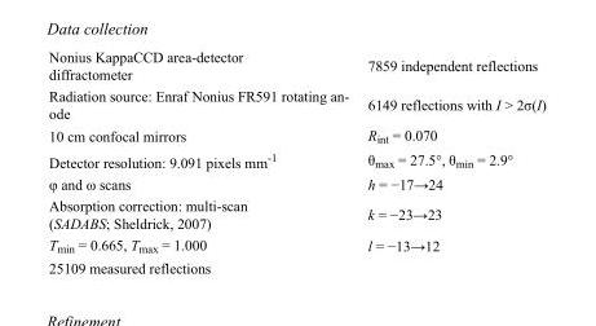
<table><tbody><tr><td>Nonius KappaCCD area-detector diffractometer</td><td>7859 independent reflections</td></tr><tr><td>Radiation source: Enraf Nonius FR591 rotating an- ode</td><td>6149 reflections with I &gt; 2σ(I)</td></tr><tr><td>10 cm confocal mirrors</td><td>R<sub>int</sub> = 0.070</td></tr><tr><td>Detector resolution: 9.091 pixels mm<sup>-1</sup></td><td>θ<sub>max</sub> = 27.5°, θ<sub>min</sub> = 2.9°</td></tr><tr><td>φ and ω scans</td><td>h = −17→24</td></tr><tr><td>Absorption correction: multi-scan (SADABS; Sheldrick, 2007)</td><td>k = −23→23</td></tr><tr><td>T<sub>min</sub> = 0.665, T<sub>max</sub> = 1.000</td><td>l = −13→12</td></tr><tr><td>25109 measured reflections</td><td></td></tr></tbody></table>